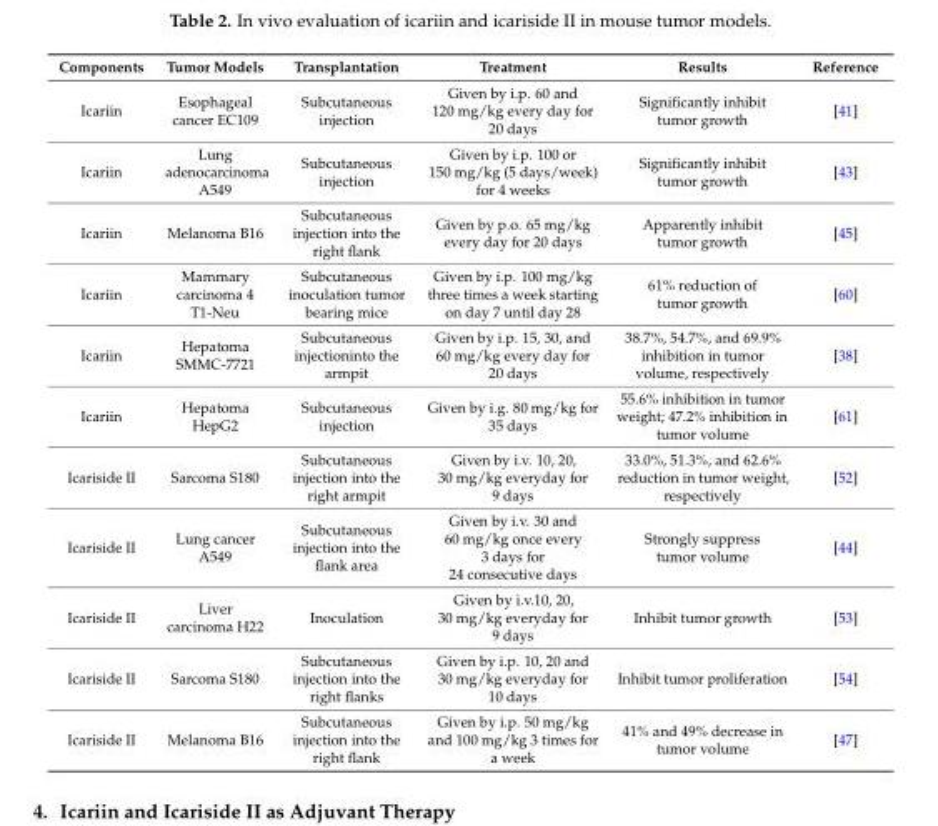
<table><thead><tr><td>Components</td><td>Tumor Models</td><td>Transplantation</td><td>Treatment</td><td>Results</td><td>Reference</td></tr></thead><tbody><tr><td>Icariin</td><td>Esophageal cancer EC109</td><td>Subcutaneous injection</td><td>Given by i.p. 60 and 120 mg/kg every day for 20 days</td><td>Significantly inhibit tumor growth</td><td>[41]</td></tr><tr><td>Icariin</td><td>Lung adenocarcinoma A549</td><td>Subcutaneous injection</td><td>Given by i.p. 100 or 150 mg/kg (5 days/week) for 4 weeks</td><td>Significantly inhibit tumor growth</td><td>[43]</td></tr><tr><td>Icariin</td><td>Melanoma B16</td><td>Subcutaneous injection into the right flank</td><td>Given by p.o. 65 mg/kg every day for 20 days</td><td>Apparently inhibit tumor growth</td><td>[45]</td></tr><tr><td>Icariin</td><td>Mammary carcinoma 4 T1-Neu</td><td>Subcutaneous inoculation tumor bearing mice</td><td>Given by i.p. 100 mg/kg three times a week starting on day 7 until day 28</td><td>61% reduction of tumor growth</td><td>[60]</td></tr><tr><td>Icariin</td><td>Hepatoma SMMC-7721</td><td>Subcutaneous injectioninto the armpit</td><td>Given by i.p. 15, 30, and 60 mg/kg every day for 20 days</td><td>38.7%, 54.7%, and 69.9% inhibition in tumor volume, respectively</td><td>[38]</td></tr><tr><td>Icariin</td><td>Hepatoma HepG2</td><td>Subcutaneous injection</td><td>Given by i.g. 80 mg/kg for 35 days</td><td>55.6% inhibition in tumor weight; 47.2% inhibition in tumor volume</td><td>[61]</td></tr><tr><td>Icariside II</td><td>Sarcoma S180</td><td>Subcutaneous injection into the right armpit</td><td>Given by i.v. 10, 20, 30 mg/kg everyday for 9 days</td><td>33.0%, 51.3%, and 62.6% reduction in tumor weight, respectively</td><td>[52]</td></tr><tr><td>Icariside II</td><td>Lung cancer A549</td><td>Subcutaneous injection into the flank area</td><td>Given by i.v. 30 and 60 mg/kg once every 3 days for 24 consecutive days</td><td>Strongly suppress tumor volume</td><td>[44]</td></tr><tr><td>Icariside II</td><td>Liver carcinoma H22</td><td>Inoculation</td><td>Given by i.v.10, 20, 30 mg/kg everyday for 9 days</td><td>Inhibit tumor growth</td><td>[53]</td></tr><tr><td>Icariside II</td><td>Sarcoma S180</td><td>Subcutaneous injection into the right flanks</td><td>Given by i.p. 10, 20 and 30 mg/kg everyday for 10 days</td><td>Inhibit tumor proliferation</td><td>[54]</td></tr><tr><td>Icariside II</td><td>Melanoma B16</td><td>Subcutaneous injection into the right flank</td><td>Given by i.p. 50 mg/kg and 100 mg/kg 3 times for a week</td><td>41% and 49% decrease in tumor volume</td><td>[47]</td></tr></tbody></table>